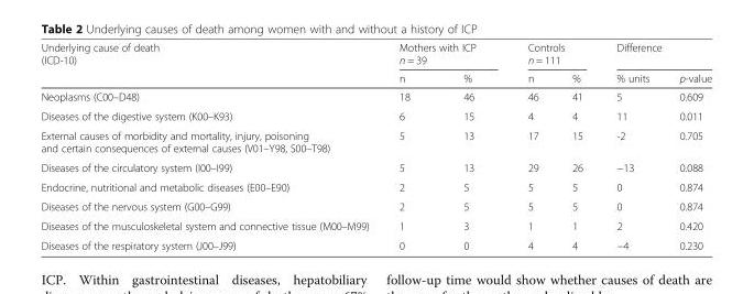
<table><thead><tr><td rowspan="2">Underlying cause of death (ICD-10)</td><td colspan="2">Mothers with ICP n = 39</td><td colspan="2">Controls n = 111</td><td colspan="2">Difference</td></tr><tr><td>n</td><td>%</td><td>n</td><td>%</td><td>% units</td><td>p-value</td></tr></thead><tbody><tr><td>Neoplasms (C00–D48)</td><td>18</td><td>46</td><td>46</td><td>41</td><td>5</td><td>0.609</td></tr><tr><td>Diseases of the digestive system (K00–K93)</td><td>6</td><td>15</td><td>4</td><td>4</td><td>11</td><td>0.011</td></tr><tr><td>External causes of morbidity and mortality, injury, poisoning and certain consequences of external causes (V01–Y98, S00–T98)</td><td>5</td><td>13</td><td>17</td><td>15</td><td>-2</td><td>0.705</td></tr><tr><td>Diseases of the circulatory system (I00–I99)</td><td>5</td><td>13</td><td>29</td><td>26</td><td>−13</td><td>0.088</td></tr><tr><td>Endocrine, nutritional and metabolic diseases (E00–E90)</td><td>2</td><td>5</td><td>5</td><td>5</td><td>0</td><td>0.874</td></tr><tr><td>Diseases of the nervous system (G00–G99)</td><td>2</td><td>5</td><td>5</td><td>5</td><td>0</td><td>0.874</td></tr><tr><td>Diseases of the musculoskeletal system and connective tissue (M00–M99)</td><td>1</td><td>3</td><td>1</td><td>1</td><td>2</td><td>0.420</td></tr><tr><td>Diseases of the respiratory system (J00–J99)</td><td>0</td><td>0</td><td>4</td><td>4</td><td>−4</td><td>0.230</td></tr></tbody></table>